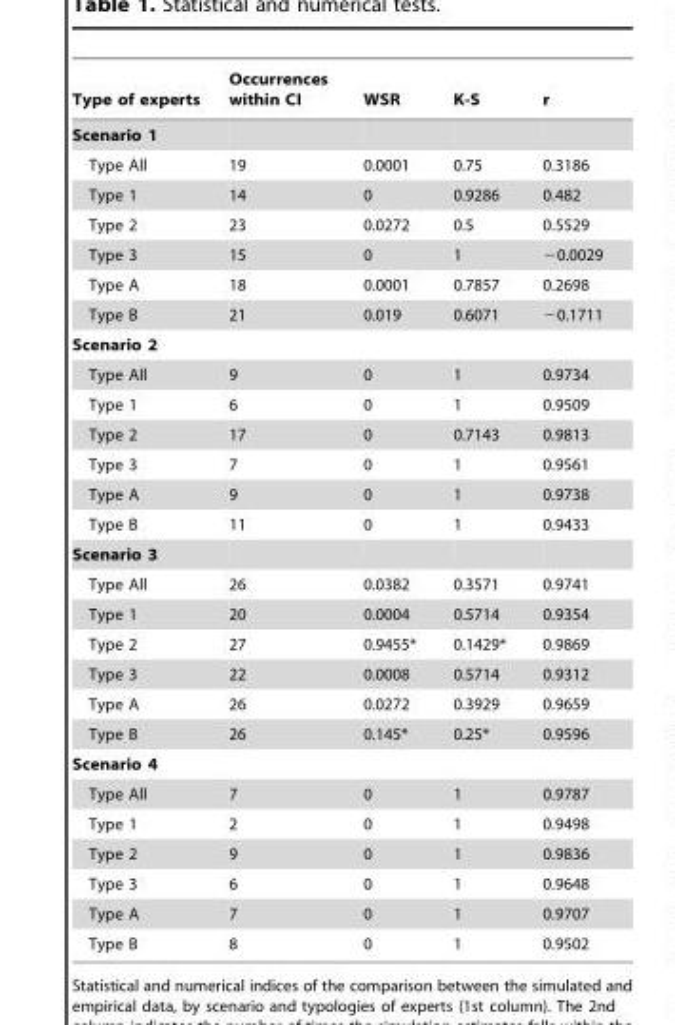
<table><thead><tr><td>Type of experts</td><td>Occurrences within CI</td><td>WSR</td><td>K-S</td><td>r</td></tr></thead><tbody><tr><td colspan="5">Scenario 1</td></tr><tr><td>Type All</td><td>19</td><td>0.0001</td><td>0.75</td><td>0.3186</td></tr><tr><td>Type 1</td><td>14</td><td>0</td><td>0.9286</td><td>0.482</td></tr><tr><td>Type 2</td><td>23</td><td>0.0272</td><td>0.5</td><td>0.5529</td></tr><tr><td>Type 3</td><td>15</td><td>0</td><td>1</td><td>−0.0029</td></tr><tr><td>Type A</td><td>18</td><td>0.0001</td><td>0.7857</td><td>0.2698</td></tr><tr><td>Type B</td><td>21</td><td>0.019</td><td>0.6071</td><td>−0.1711</td></tr><tr><td colspan="5">Scenario 2</td></tr><tr><td>Type All</td><td>9</td><td>0</td><td>1</td><td>0.9734</td></tr><tr><td>Type 1</td><td>6</td><td>0</td><td>1</td><td>0.9509</td></tr><tr><td>Type 2</td><td>17</td><td>0</td><td>0.7143</td><td>0.9813</td></tr><tr><td>Type 3</td><td>7</td><td>0</td><td>1</td><td>0.9561</td></tr><tr><td>Type A</td><td>9</td><td>0</td><td>1</td><td>0.9738</td></tr><tr><td>Type B</td><td>11</td><td>0</td><td>1</td><td>0.9433</td></tr><tr><td colspan="5">Scenario 3</td></tr><tr><td>Type All</td><td>26</td><td>0.0382</td><td>0.3571</td><td>0.9741</td></tr><tr><td>Type 1</td><td>20</td><td>0.0004</td><td>0.5714</td><td>0.9354</td></tr><tr><td>Type 2</td><td>27</td><td>0.9455*</td><td>0.1429*</td><td>0.9869</td></tr><tr><td>Type 3</td><td>22</td><td>0.0008</td><td>0.5714</td><td>0.9312</td></tr><tr><td>Type A</td><td>26</td><td>0.0272</td><td>0.3929</td><td>0.9659</td></tr><tr><td>Type B</td><td>26</td><td>0.145*</td><td>0.25*</td><td>0.9596</td></tr><tr><td colspan="5">Scenario 4</td></tr><tr><td>Type All</td><td>7</td><td>0</td><td>1</td><td>0.9787</td></tr><tr><td>Type 1</td><td>2</td><td>0</td><td>1</td><td>0.9498</td></tr><tr><td>Type 2</td><td>9</td><td>0</td><td>1</td><td>0.9836</td></tr><tr><td>Type 3</td><td>6</td><td>0</td><td>1</td><td>0.9648</td></tr><tr><td>Type A</td><td>7</td><td>0</td><td>1</td><td>0.9707</td></tr><tr><td>Type B</td><td>8</td><td>0</td><td>1</td><td>0.9502</td></tr></tbody></table>